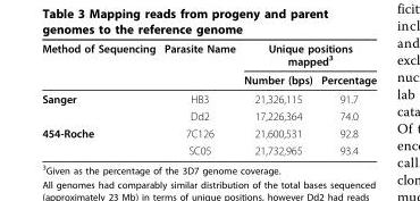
<table><thead><tr><td rowspan="2">Method of Sequencing</td><td rowspan="2">Parasite Name</td><td colspan="2">Unique positions mapped<sup>3</sup></td></tr><tr><td>Number (bps)</td><td>Percentage</td></tr></thead><tbody><tr><td rowspan="2">Sanger</td><td>HB3</td><td>21,326,115</td><td>91.7</td></tr><tr><td>Dd2</td><td>17,226,364</td><td>74.0</td></tr><tr><td rowspan="2">454-Roche</td><td>7C126</td><td>21,600,531</td><td>92.8</td></tr><tr><td>SC05</td><td>21,732,965</td><td>93.4</td></tr></tbody></table>